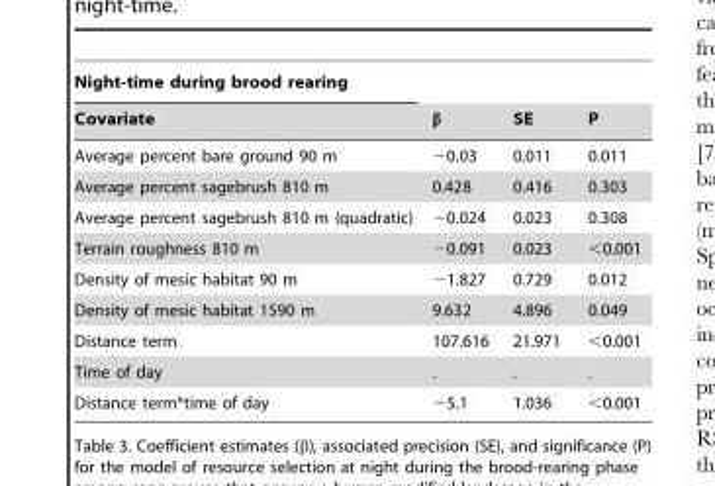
<table><thead><tr><td rowspan="2">Night-time during brood rearing Covariate</td><td rowspan="2">β</td><td rowspan="2">SE</td><td rowspan="2">P</td></tr><tr></tr></thead><tbody><tr><td>Average percent bare ground 90 m</td><td>−0.03</td><td>0.011</td><td>0.011</td></tr><tr><td>Average percent sagebrush 810 m</td><td>0.428</td><td>0.416</td><td>0.303</td></tr><tr><td>Average percent sagebrush 810 m (quadratic)</td><td>−0.024</td><td>0.023</td><td>0.308</td></tr><tr><td>Terrain roughness 810 m</td><td>−0.091</td><td>0.023</td><td>&lt;0.001</td></tr><tr><td>Density of mesic habitat 90 m</td><td>−1.827</td><td>0.729</td><td>0.012</td></tr><tr><td>Density of mesic habitat 1590 m</td><td>9.632</td><td>4.896</td><td>0.049</td></tr><tr><td>Distance term</td><td>107.616</td><td>21.971</td><td>&lt;0.001</td></tr><tr><td>Time of day</td><td>.</td><td>.</td><td>.</td></tr><tr><td>Distance term*time of day</td><td>−5.1</td><td>1.036</td><td>&lt;0.001</td></tr></tbody></table>